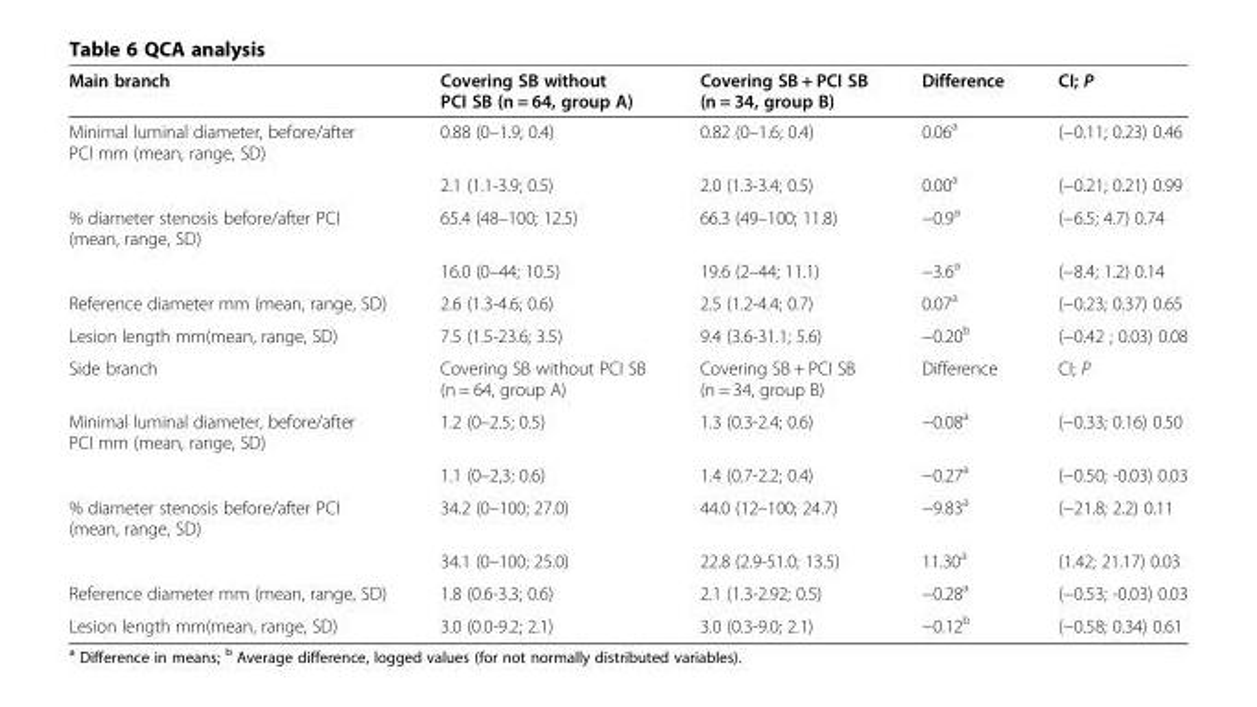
<table><thead><tr><td>Main branch</td><td>Covering SB without PCI SB (n = 64, group A)</td><td>Covering SB + PCI SB (n = 34, group B)</td><td>Difference</td><td>CI; P</td></tr></thead><tbody><tr><td rowspan="2">Minimal luminal diameter, before/after PCI mm (mean, range, SD)</td><td>0.88 (0–1.9; 0.4)</td><td>0.82 (0–1.6; 0.4)</td><td>0.06<sup>a</sup></td><td>(−0.11; 0.23) 0.46</td></tr><tr><td>2.1 (1.1-3.9; 0.5)</td><td>2.0 (1.3-3.4; 0.5)</td><td>0.00<sup>a</sup></td><td>(−0.21; 0.21) 0.99</td></tr><tr><td rowspan="2">% diameter stenosis before/after PCI (mean, range, SD)</td><td>65.4 (48–100; 12.5)</td><td>66.3 (49–100; 11.8)</td><td>−0.9<sup>a</sup></td><td>(−6.5; 4.7) 0.74</td></tr><tr><td>16.0 (0–44; 10.5)</td><td>19.6 (2–44; 11.1)</td><td>−3.6<sup>a</sup></td><td>(−8.4; 1.2) 0.14</td></tr><tr><td>Reference diameter mm (mean, range, SD)</td><td>2.6 (1.3-4.6; 0.6)</td><td>2.5 (1.2-4.4; 0.7)</td><td>0.07<sup>a</sup></td><td>(−0.23; 0.37) 0.65</td></tr><tr><td>Lesion length mm(mean, range, SD)</td><td>7.5 (1.5-23.6; 3.5)</td><td>9.4 (3.6-31.1; 5.6)</td><td>−0.20<sup>b</sup></td><td>(−0.42 ; 0.03) 0.08</td></tr><tr><td>Side branch</td><td>Covering SB without PCI SB (n = 64, group A)</td><td>Covering SB + PCI SB (n = 34, group B)</td><td>Difference</td><td>CI; P</td></tr><tr><td rowspan="2">Minimal luminal diameter, before/after PCI mm (mean, range, SD)</td><td>1.2 (0–2.5; 0.5)</td><td>1.3 (0.3-2.4; 0.6)</td><td>−0.08<sup>a</sup></td><td>(−0.33; 0.16) 0.50</td></tr><tr><td>1.1 (0–2,3; 0.6)</td><td>1.4 (0.7-2.2; 0.4)</td><td>−0.27<sup>a</sup></td><td>(−0.50; -0.03) 0.03</td></tr><tr><td rowspan="2">% diameter stenosis before/after PCI (mean, range, SD)</td><td>34.2 (0–100; 27.0)</td><td>44.0 (12–100; 24.7)</td><td>−9.83<sup>a</sup></td><td>(−21.8; 2.2) 0.11</td></tr><tr><td>34.1 (0–100; 25.0)</td><td>22.8 (2.9-51.0; 13.5)</td><td>11.30<sup>a</sup></td><td>(1.42; 21.17) 0.03</td></tr><tr><td>Reference diameter mm (mean, range, SD)</td><td>1.8 (0.6-3.3; 0.6)</td><td>2.1 (1.3-2.92; 0.5)</td><td>−0.28<sup>a</sup></td><td>(−0.53; -0.03) 0.03</td></tr><tr><td>Lesion length mm(mean, range, SD)</td><td>3.0 (0.0-9.2; 2.1)</td><td>3.0 (0.3-9.0; 2.1)</td><td>−0.12<sup>b</sup></td><td>(−0.58; 0.34) 0.61</td></tr></tbody></table>